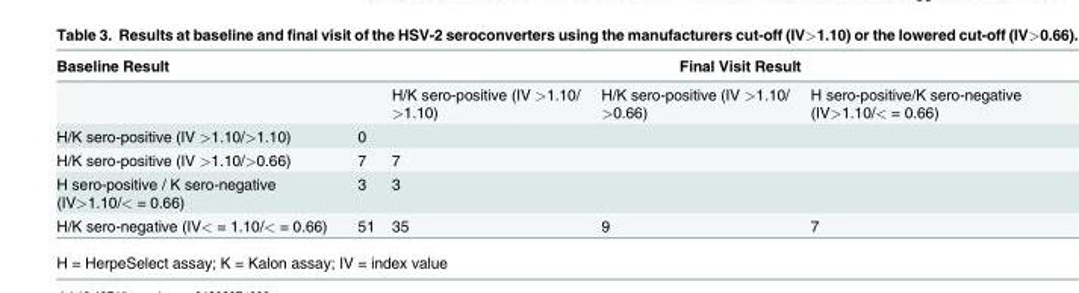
<table><thead><tr><td colspan="2">Baseline Result</td><td colspan="3">Final Visit Result</td></tr><tr><td></td><td></td><td>H/K sero-positive (IV &gt;1.10/ &gt;1.10)</td><td>H/K sero-positive (IV &gt;1.10/ &gt;0.66)</td><td>H sero-positive/K sero-negative (IV&gt;1.10/&lt; = 0.66)</td></tr></thead><tbody><tr><td>H/K sero-positive (IV &gt;1.10/&gt;1.10)</td><td>0</td><td></td><td></td><td></td></tr><tr><td>H/K sero-positive (IV &gt;1.10/&gt;0.66)</td><td>7</td><td>7</td><td></td><td></td></tr><tr><td>H sero-positive / K sero-negative (IV&gt;1.10/&lt; = 0.66)</td><td>3</td><td>3</td><td></td><td></td></tr><tr><td>H/K sero-negative (IV&lt; = 1.10/&lt; = 0.66)</td><td>51</td><td>35</td><td>9</td><td>7</td></tr></tbody></table>